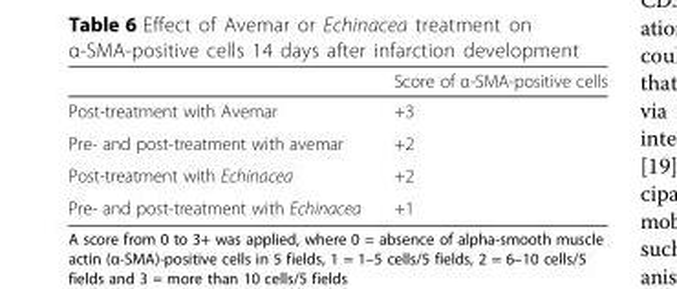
<table><thead><tr><td></td><td>Score of α-SMA-positive cells</td></tr></thead><tbody><tr><td>Post-treatment with Avemar</td><td>+3</td></tr><tr><td>Pre- and post-treatment with avemar</td><td>+2</td></tr><tr><td>Post-treatment with Echinacea</td><td>+2</td></tr><tr><td>Pre- and post-treatment with Echinacea</td><td>+1</td></tr></tbody></table>